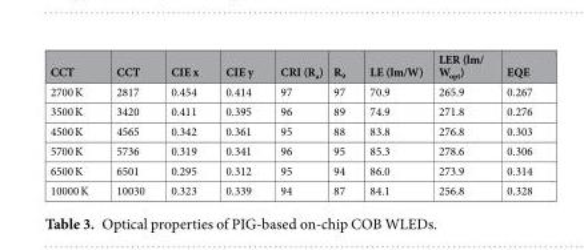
<table><thead><tr><td>CCT</td><td>CCT</td><td>CIE x</td><td>CIE y</td><td>CRI (R<sub>a</sub>)</td><td>R<sub>9</sub></td><td>LE (lm/W)</td><td>LER (lm/ W<sub>opt</sub>)</td><td>EQE</td></tr></thead><tbody><tr><td>2700 K</td><td>2817</td><td>0.454</td><td>0.414</td><td>97</td><td>97</td><td>70.9</td><td>265.9</td><td>0.267</td></tr><tr><td>3500 K</td><td>3420</td><td>0.411</td><td>0.395</td><td>96</td><td>89</td><td>74.9</td><td>271.8</td><td>0.276</td></tr><tr><td>4500 K</td><td>4565</td><td>0.342</td><td>0.361</td><td>95</td><td>88</td><td>83.8</td><td>276.8</td><td>0.303</td></tr><tr><td>5700 K</td><td>5736</td><td>0.319</td><td>0.341</td><td>96</td><td>95</td><td>85.3</td><td>278.6</td><td>0.306</td></tr><tr><td>6500 K</td><td>6501</td><td>0.295</td><td>0.312</td><td>95</td><td>94</td><td>86.0</td><td>273.9</td><td>0.314</td></tr><tr><td>10000 K</td><td>10030</td><td>0.323</td><td>0.339</td><td>94</td><td>87</td><td>84.1</td><td>256.8</td><td>0.328</td></tr></tbody></table>